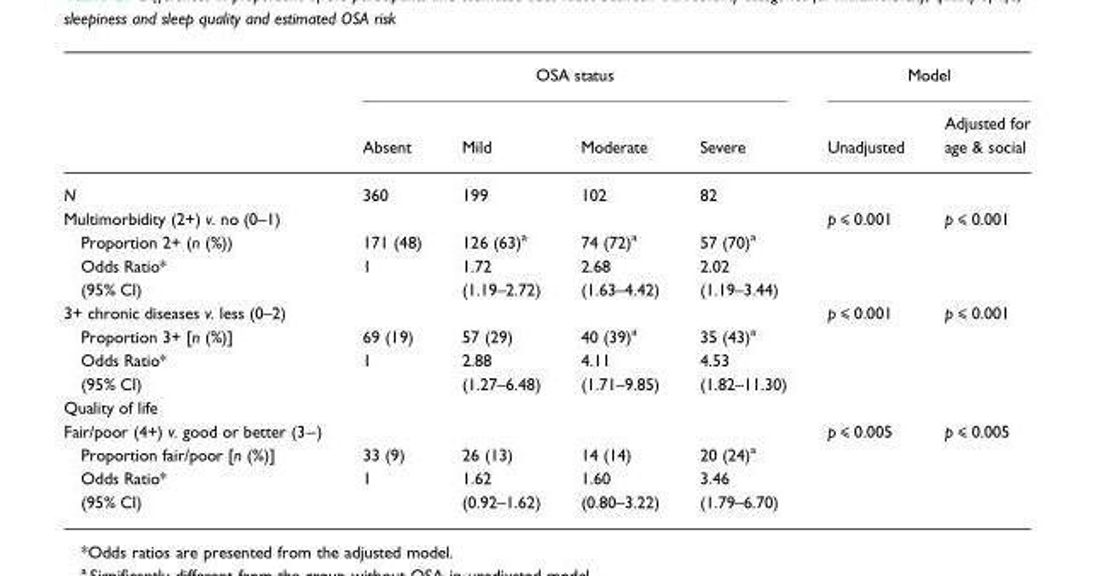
<table><thead><tr><td rowspan="2"></td><td colspan="4">OSA status</td><td colspan="2">Model</td></tr><tr><td>Absent</td><td>Mild</td><td>Moderate</td><td>Severe</td><td>Unadjusted</td><td>Adjusted for age &amp; social</td></tr></thead><tbody><tr><td>N</td><td>360</td><td>199</td><td>102</td><td>82</td><td></td><td></td></tr><tr><td>Multimorbidity (2+) v. no (0–1)</td><td></td><td></td><td></td><td></td><td>p ⩽ 0.001</td><td>p ⩽ 0.001</td></tr><tr><td>Proportion 2+ (n (%))</td><td>171 (48)</td><td>126 (63)<sup>a</sup></td><td>74 (72)<sup>a</sup></td><td>57 (70)<sup>a</sup></td><td></td><td></td></tr><tr><td>Odds Ratio*</td><td>1</td><td>1.72</td><td>2.68</td><td>2.02</td><td></td><td></td></tr><tr><td>(95% CI)</td><td></td><td>(1.19–2.72)</td><td>(1.63–4.42)</td><td>(1.19–3.44)</td><td></td><td></td></tr><tr><td>3+ chronic diseases v. less (0–2)</td><td></td><td></td><td></td><td></td><td>p ⩽ 0.001</td><td>p ⩽ 0.001</td></tr><tr><td>Proportion 3+ [n (%)]</td><td>69 (19)</td><td>57 (29)</td><td>40 (39)<sup>a</sup></td><td>35 (43)<sup>a</sup></td><td></td><td></td></tr><tr><td>Odds Ratio*</td><td>1</td><td>2.88</td><td>4.11</td><td>4.53</td><td></td><td></td></tr><tr><td>(95% CI)</td><td></td><td>(1.27–6.48)</td><td>(1.71–9.85)</td><td>(1.82–11.30)</td><td></td><td></td></tr><tr><td colspan="7">Quality of life</td></tr><tr><td>Fair/poor (4+) v. good or better (3−)</td><td></td><td></td><td></td><td></td><td>p ⩽ 0.005</td><td>p ⩽ 0.005</td></tr><tr><td>Proportion fair/poor [n (%)]</td><td>33 (9)</td><td>26 (13)</td><td>14 (14)</td><td>20 (24)<sup>a</sup></td><td></td><td></td></tr><tr><td>Odds Ratio*</td><td>1</td><td>1.62</td><td>1.60</td><td>3.46</td><td></td><td></td></tr><tr><td>(95% CI)</td><td></td><td>(0.92–1.62)</td><td>(0.80–3.22)</td><td>(1.79–6.70)</td><td></td><td></td></tr></tbody></table>